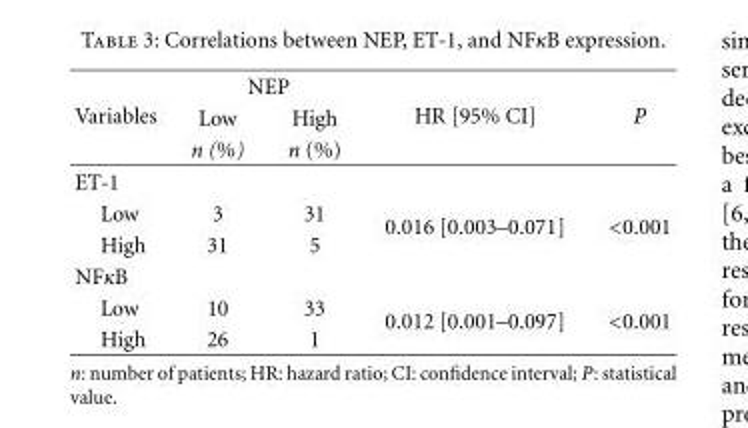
<table><thead><tr><td rowspan="3">Variables</td><td colspan="2">NEP</td><td rowspan="3">HR [95% CI]</td><td rowspan="3">P</td></tr><tr><td rowspan="2">Low n (%)</td><td rowspan="2">High n (%)</td></tr><tr></tr></thead><tbody><tr><td colspan="5">ET-1</td></tr><tr><td>Low</td><td>3</td><td>31</td><td rowspan="2">0.016 [0.003–0.071]</td><td rowspan="2">&lt;0.001</td></tr><tr><td>High</td><td>31</td><td>5</td></tr><tr><td colspan="5">NFκB</td></tr><tr><td>Low</td><td>10</td><td>33</td><td rowspan="2">0.012 [0.001–0.097]</td><td rowspan="2">&lt;0.001</td></tr><tr><td>High</td><td>26</td><td>1</td></tr></tbody></table>